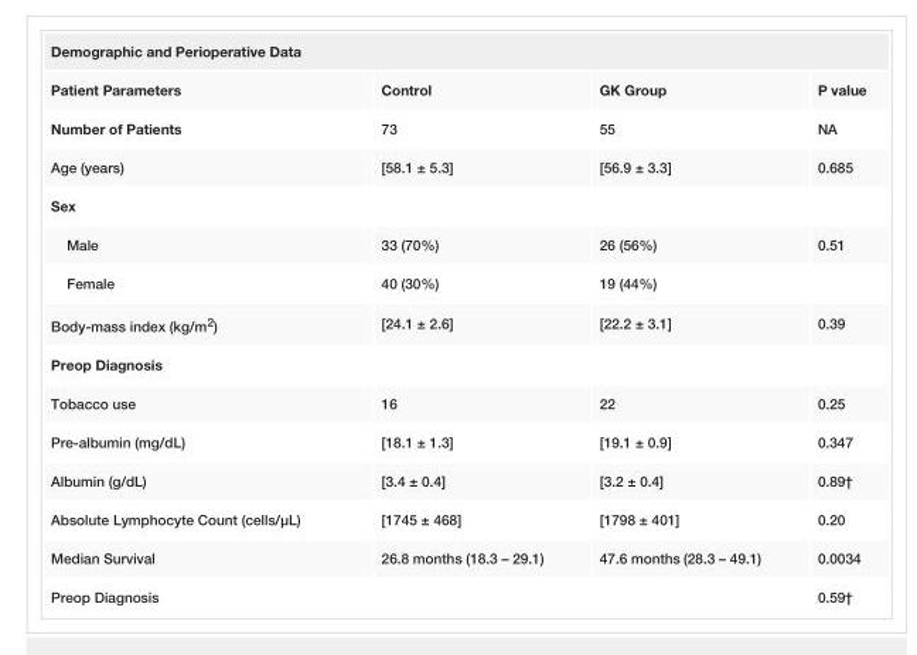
<table><tbody><tr><td colspan="4">Demographic and Perioperative Data</td></tr><tr><td>Patient Parameters</td><td>Control</td><td>GK Group</td><td>P value</td></tr><tr><td>Number of Patients</td><td>73</td><td>55</td><td>NA</td></tr><tr><td>Age (years)</td><td>[58.1 ± 5.3]</td><td>[56.9 ± 3.3]</td><td>0.685</td></tr><tr><td colspan="4">Sex</td></tr><tr><td>Male</td><td>33 (70%)</td><td>26 (56%)</td><td>0.51</td></tr><tr><td>Female</td><td>40 (30%)</td><td>19 (44%)</td><td></td></tr><tr><td>Body-mass index (kg/m<sup>2</sup>)</td><td>[24.1 ± 2.6]</td><td>[22.2 ± 3.1]</td><td>0.39</td></tr><tr><td colspan="4">Preop Diagnosis</td></tr><tr><td>Tobacco use</td><td>16</td><td>22</td><td>0.25</td></tr><tr><td>Pre-albumin (mg/dL)</td><td>[18.1 ± 1.3]</td><td>[19.1 ± 0.9]</td><td>0.347</td></tr><tr><td>Albumin (g/dL)</td><td>[3.4 ± 0.4]</td><td>[3.2 ± 0.4]</td><td>0.89†</td></tr><tr><td>Absolute Lymphocyte Count (cells/μL)</td><td>[1745 ± 468]</td><td>[1798 ± 401]</td><td>0.20</td></tr><tr><td>Median Survival</td><td>26.8 months (18.3 – 29.1)</td><td>47.6 months (28.3 – 49.1)</td><td>0.0034</td></tr><tr><td>Preop Diagnosis</td><td></td><td></td><td>0.59†</td></tr></tbody></table>